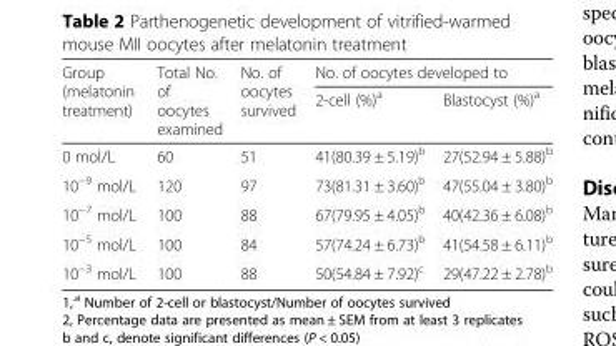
<table><thead><tr><td rowspan="2">Group (melatonin treatment)</td><td rowspan="2">Total No. of oocytes examined</td><td rowspan="2">No. of oocytes survived</td><td colspan="2">No. of oocytes developed to</td></tr><tr><td>2-cell (%)<sup>a</sup></td><td>Blastocyst (%)<sup>a</sup></td></tr></thead><tbody><tr><td>0 mol/L</td><td>60</td><td>51</td><td>41(80.39 ± 5.19)<sup>b</sup></td><td>27(52.94 ± 5.88)<sup>b</sup></td></tr><tr><td>10<sup>−9</sup> mol/L</td><td>120</td><td>97</td><td>73(81.31 ± 3.60)<sup>b</sup></td><td>47(55.04 ± 3.80)<sup>b</sup></td></tr><tr><td>10<sup>−7</sup> mol/L</td><td>100</td><td>88</td><td>67(79.95 ± 4.05)<sup>b</sup></td><td>40(42.36 ± 6.08)<sup>b</sup></td></tr><tr><td>10<sup>−5</sup> mol/L</td><td>100</td><td>84</td><td>57(74.24 ± 6.73)<sup>b</sup></td><td>41(54.58 ± 6.11)<sup>b</sup></td></tr><tr><td>10<sup>−3</sup> mol/L</td><td>100</td><td>88</td><td>50(54.84 ± 7.92)<sup>c</sup></td><td>29(47.22 ± 2.78)<sup>b</sup></td></tr></tbody></table>